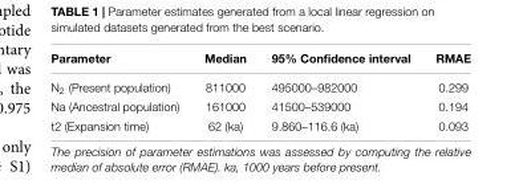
<table><thead><tr><td>Parameter</td><td>Median</td><td>95% Confidence interval</td><td>RMAE</td></tr></thead><tbody><tr><td>N<sub>2</sub> (Present population)</td><td>811000</td><td>495000–982000</td><td>0.299</td></tr><tr><td>Na (Ancestral population)</td><td>161000</td><td>41500–539000</td><td>0.194</td></tr><tr><td>t2 (Expansion time)</td><td>62 (ka)</td><td>9.860–116.6 (ka)</td><td>0.093</td></tr></tbody></table>